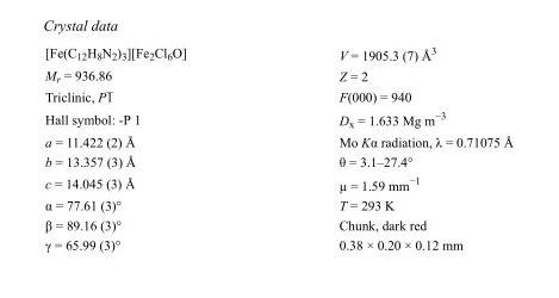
<table><tbody><tr><td>[Fe(C<sub>12</sub>H<sub>8</sub>N<sub>2</sub>)<sub>3</sub>][Fe<sub>2</sub>Cl<sub>6</sub>O]</td><td>V = 1905.3 (7) Å<sup>3</sup></td></tr><tr><td>M<sub>r</sub> = 936.86</td><td>Z = 2</td></tr><tr><td>Triclinic, P1</td><td>F(000) = 940</td></tr><tr><td>Hall symbol: -P 1</td><td>D<sub>x</sub> = 1.633 Mg m<sup>−3</sup></td></tr><tr><td>a = 11.422 (2) Å</td><td>Mo Kα radiation, λ = 0.71075 Å</td></tr><tr><td>b = 13.357 (3) Å</td><td>θ = 3.1–27.4°</td></tr><tr><td>c = 14.045 (3) Å</td><td>µ = 1.59 mm<sup>−1</sup></td></tr><tr><td>α = 77.61 (3)°</td><td>T = 293 K</td></tr><tr><td>β = 89.16 (3)°</td><td>Chunk, dark red</td></tr><tr><td>γ = 65.99 (3)°</td><td>0.38 × 0.20 × 0.12 mm</td></tr></tbody></table>